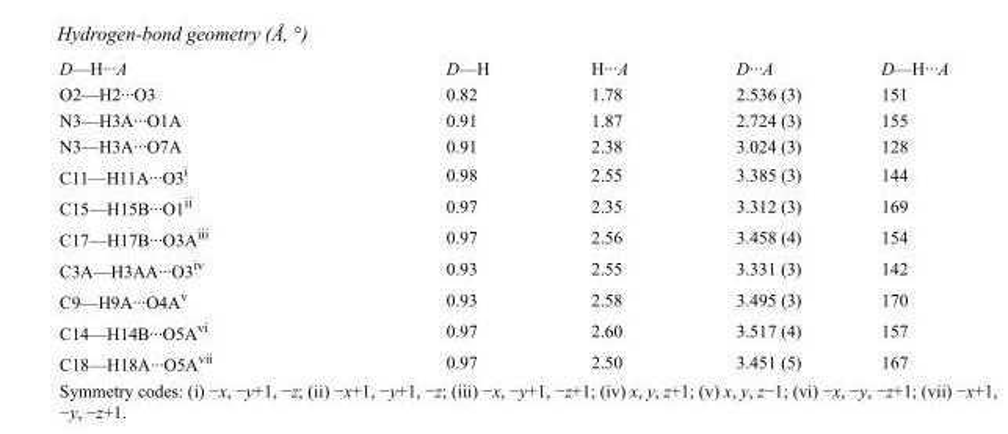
<table><tbody><tr><td>D—H···A</td><td>D—H</td><td>H···A</td><td>D···A</td><td>D—H···A</td></tr><tr><td>O2—H2···O3</td><td>0.82</td><td>1.78</td><td>2.536 (3)</td><td>151</td></tr><tr><td>N3—H3A···O1A</td><td>0.91</td><td>1.87</td><td>2.724 (3)</td><td>155</td></tr><tr><td>N3—H3A···O7A</td><td>0.91</td><td>2.38</td><td>3.024 (3)</td><td>128</td></tr><tr><td>C11—H11A···O3<sup>i</sup></td><td>0.98</td><td>2.55</td><td>3.385 (3)</td><td>144</td></tr><tr><td>C15—H15B···O1<sup>ii</sup></td><td>0.97</td><td>2.35</td><td>3.312 (3)</td><td>169</td></tr><tr><td>C17—H17B···O3A<sup>iii</sup></td><td>0.97</td><td>2.56</td><td>3.458 (4)</td><td>154</td></tr><tr><td>C3A—H3AA···O3<sup>iv</sup></td><td>0.93</td><td>2.55</td><td>3.331 (3)</td><td>142</td></tr><tr><td>C9—H9A···O4A<sup>v</sup></td><td>0.93</td><td>2.58</td><td>3.495 (3)</td><td>170</td></tr><tr><td>C14—H14B···O5A<sup>vi</sup></td><td>0.97</td><td>2.60</td><td>3.517 (4)</td><td>157</td></tr><tr><td>C18—H18A···O5A<sup>vii</sup></td><td>0.97</td><td>2.50</td><td>3.451 (5)</td><td>167</td></tr></tbody></table>